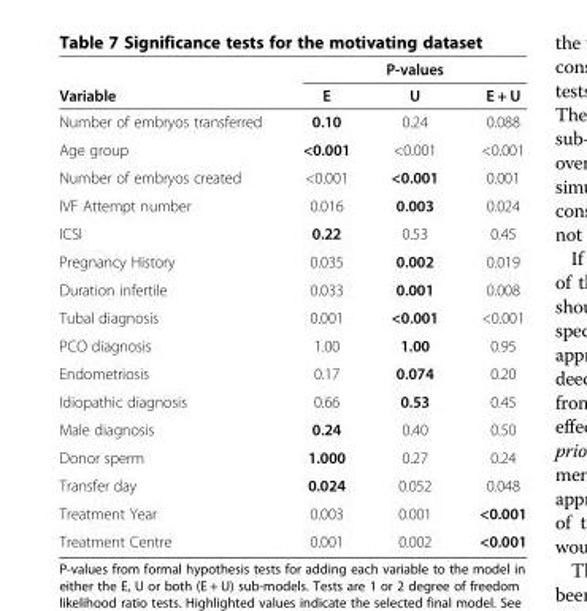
<table><thead><tr><td rowspan="2">Variable</td><td colspan="3">P-values</td></tr><tr><td>E</td><td>U</td><td>E + U</td></tr></thead><tbody><tr><td>Number of embryos transferred</td><td>0.10</td><td>0.24</td><td>0.088</td></tr><tr><td>Age group</td><td>&lt;0.001</td><td>&lt;0.001</td><td>&lt;0.001</td></tr><tr><td>Number of embryos created</td><td>&lt;0.001</td><td>&lt;0.001</td><td>0.001</td></tr><tr><td>IVF Attempt number</td><td>0.016</td><td>0.003</td><td>0.024</td></tr><tr><td>ICSI</td><td>0.22</td><td>0.53</td><td>0.45</td></tr><tr><td>Pregnancy History</td><td>0.035</td><td>0.002</td><td>0.019</td></tr><tr><td>Duration infertile</td><td>0.033</td><td>0.001</td><td>0.008</td></tr><tr><td>Tubal diagnosis</td><td>0.001</td><td>&lt;0.001</td><td>&lt;0.001</td></tr><tr><td>PCO diagnosis</td><td>1.00</td><td>1.00</td><td>0.95</td></tr><tr><td>Endometriosis</td><td>0.17</td><td>0.074</td><td>0.20</td></tr><tr><td>Idiopathic diagnosis</td><td>0.66</td><td>0.53</td><td>0.45</td></tr><tr><td>Male diagnosis</td><td>0.24</td><td>0.40</td><td>0.50</td></tr><tr><td>Donor sperm</td><td>1.000</td><td>0.27</td><td>0.24</td></tr><tr><td>Transfer day</td><td>0.024</td><td>0.052</td><td>0.048</td></tr><tr><td>Treatment Year</td><td>0.003</td><td>0.001</td><td>&lt;0.001</td></tr><tr><td>Treatment Centre</td><td>0.001</td><td>0.002</td><td>&lt;0.001</td></tr></tbody></table>